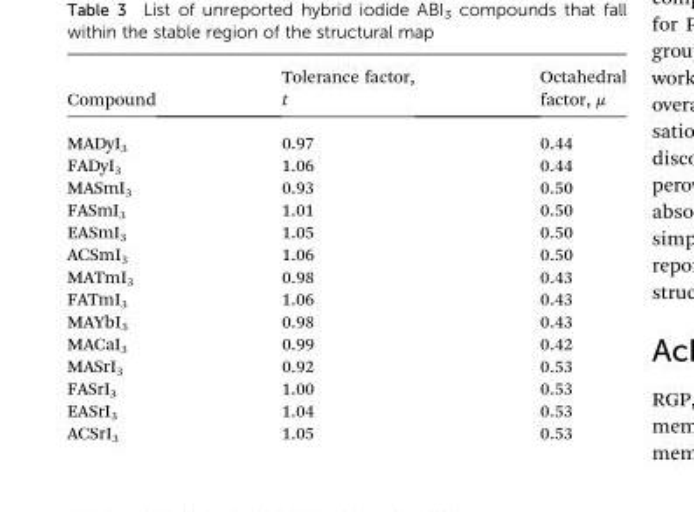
<table><thead><tr><td>Compound</td><td>Tolerance factor, t</td><td>Octahedral factor, μ</td></tr></thead><tbody><tr><td>MADyI<sub>3</sub></td><td>0.97</td><td>0.44</td></tr><tr><td>FADyI<sub>3</sub></td><td>1.06</td><td>0.44</td></tr><tr><td>MASmI<sub>3</sub></td><td>0.93</td><td>0.50</td></tr><tr><td>FASmI<sub>3</sub></td><td>1.01</td><td>0.50</td></tr><tr><td>EASmI<sub>3</sub></td><td>1.05</td><td>0.50</td></tr><tr><td>ACSmI<sub>3</sub></td><td>1.06</td><td>0.50</td></tr><tr><td>MATmI<sub>3</sub></td><td>0.98</td><td>0.43</td></tr><tr><td>FATmI<sub>3</sub></td><td>1.06</td><td>0.43</td></tr><tr><td>MAYbI<sub>3</sub></td><td>0.98</td><td>0.43</td></tr><tr><td>MACaI<sub>3</sub></td><td>0.99</td><td>0.42</td></tr><tr><td>MASrI<sub>3</sub></td><td>0.92</td><td>0.53</td></tr><tr><td>FASrI<sub>3</sub></td><td>1.00</td><td>0.53</td></tr><tr><td>EASrI<sub>3</sub></td><td>1.04</td><td>0.53</td></tr><tr><td>ACSrI<sub>3</sub></td><td>1.05</td><td>0.53</td></tr></tbody></table>